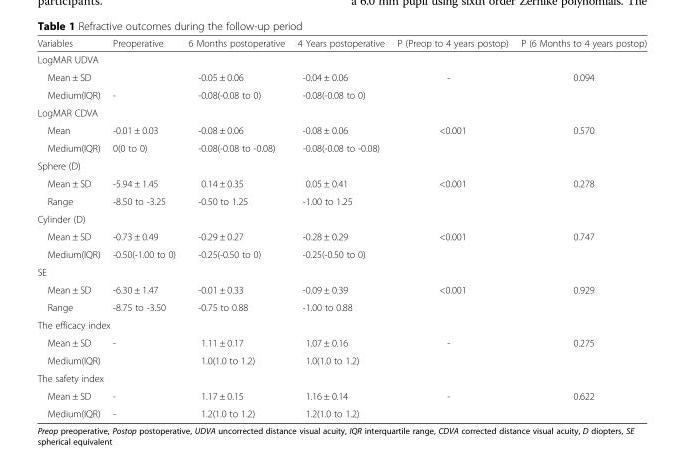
<table><thead><tr><td>Variables</td><td>Preoperative</td><td>6 Months postoperative</td><td>4 Years postoperative</td><td>P (Preop to 4 years postop)</td><td>P (6 Months to 4 years postop)</td></tr></thead><tbody><tr><td colspan="6">LogMAR UDVA</td></tr><tr><td>Mean ± SD</td><td></td><td>-0.05 ± 0.06</td><td>-0.04 ± 0.06</td><td>-</td><td>0.094</td></tr><tr><td>Medium(IQR)</td><td>-</td><td>-0.08(-0.08 to 0)</td><td>-0.08(-0.08 to 0)</td><td></td><td></td></tr><tr><td colspan="6">LogMAR CDVA</td></tr><tr><td>Mean</td><td>-0.01 ± 0.03</td><td>-0.08 ± 0.06</td><td>-0.08 ± 0.06</td><td>&lt;0.001</td><td>0.570</td></tr><tr><td>Medium(IQR)</td><td>0(0 to 0)</td><td>-0.08(-0.08 to -0.08)</td><td>-0.08(-0.08 to -0.08)</td><td></td><td></td></tr><tr><td colspan="6">Sphere (D)</td></tr><tr><td>Mean ± SD</td><td>-5.94 ± 1.45</td><td>0.14 ± 0.35</td><td>0.05 ± 0.41</td><td>&lt;0.001</td><td>0.278</td></tr><tr><td>Range</td><td>-8.50 to -3.25</td><td>-0.50 to 1.25</td><td>-1.00 to 1.25</td><td></td><td></td></tr><tr><td colspan="6">Cylinder (D)</td></tr><tr><td>Mean ± SD</td><td>-0.73 ± 0.49</td><td>-0.29 ± 0.27</td><td>-0.28 ± 0.29</td><td>&lt;0.001</td><td>0.747</td></tr><tr><td>Medium(IQR)</td><td>-0.50(-1.00 to 0)</td><td>-0.25(-0.50 to 0)</td><td>-0.25(-0.50 to 0)</td><td></td><td></td></tr><tr><td colspan="6">SE</td></tr><tr><td>Mean ± SD</td><td>-6.30 ± 1.47</td><td>-0.01 ± 0.33</td><td>-0.09 ± 0.39</td><td>&lt;0.001</td><td>0.929</td></tr><tr><td>Range</td><td>-8.75 to -3.50</td><td>-0.75 to 0.88</td><td>-1.00 to 0.88</td><td></td><td></td></tr><tr><td colspan="6">The efficacy index</td></tr><tr><td>Mean ± SD</td><td>-</td><td>1.11 ± 0.17</td><td>1.07 ± 0.16</td><td>-</td><td>0.275</td></tr><tr><td>Medium(IQR)</td><td></td><td>1.0(1.0 to 1.2)</td><td>1.0(1.0 to 1.2)</td><td></td><td></td></tr><tr><td colspan="6">The safety index</td></tr><tr><td>Mean ± SD</td><td>-</td><td>1.17 ± 0.15</td><td>1.16 ± 0.14</td><td>-</td><td>0.622</td></tr><tr><td>Medium(IQR)</td><td>-</td><td>1.2(1.0 to 1.2)</td><td>1.2(1.0 to 1.2)</td><td></td><td></td></tr></tbody></table>